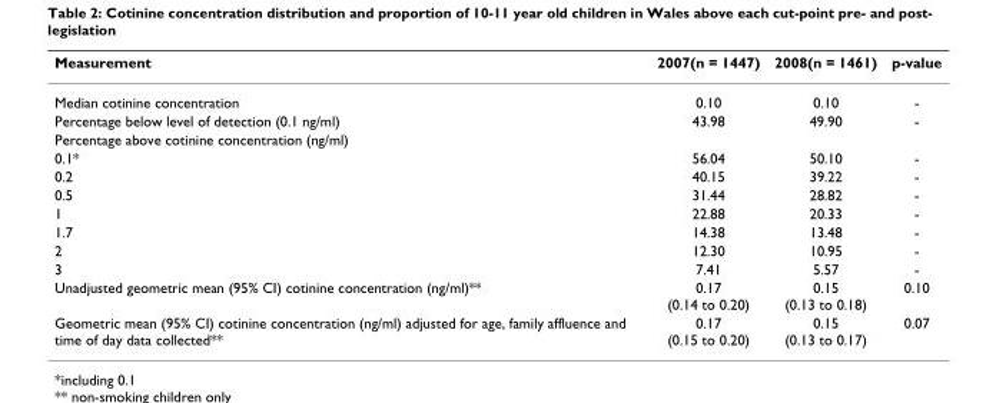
<table><thead><tr><td>Measurement</td><td>2007(n = 1447)</td><td>2008(n = 1461)</td><td>p-value</td></tr></thead><tbody><tr><td>Median cotinine concentration</td><td>0.10</td><td>0.10</td><td>-</td></tr><tr><td>Percentage below level of detection (0.1 ng/ml)</td><td>43.98</td><td>49.90</td><td>-</td></tr><tr><td colspan="4">Percentage above cotinine concentration (ng/ml)</td></tr><tr><td>0.1*</td><td>56.04</td><td>50.10</td><td>-</td></tr><tr><td>0.2</td><td>40.15</td><td>39.22</td><td>-</td></tr><tr><td>0.5</td><td>31.44</td><td>28.82</td><td>-</td></tr><tr><td>1</td><td>22.88</td><td>20.33</td><td>-</td></tr><tr><td>1.7</td><td>14.38</td><td>13.48</td><td>-</td></tr><tr><td>2</td><td>12.30</td><td>10.95</td><td>-</td></tr><tr><td>3</td><td>7.41</td><td>5.57</td><td>-</td></tr><tr><td>Unadjusted geometric mean (95% CI) cotinine concentration (ng/ml)**</td><td>0.17 (0.14 to 0.20)</td><td>0.15 (0.13 to 0.18)</td><td>0.10</td></tr><tr><td>Geometric mean (95% CI) cotinine concentration (ng/ml) adjusted for age, family affluence and time of day data collected**</td><td>0.17 (0.15 to 0.20)</td><td>0.15 (0.13 to 0.17)</td><td>0.07</td></tr></tbody></table>